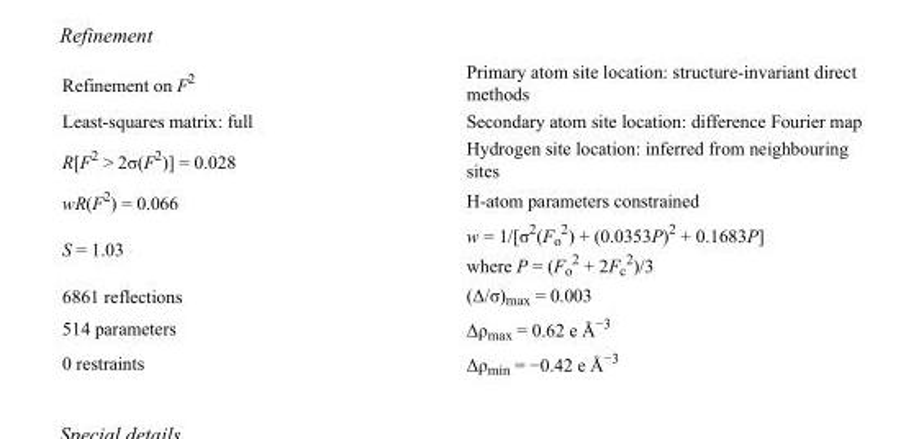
<table><tbody><tr><td>Refinement on F<sup>2</sup></td><td>Primary atom site location: structure-invariant direct methods</td></tr><tr><td>Least-squares matrix: full</td><td>Secondary atom site location: difference Fourier map</td></tr><tr><td>R[F<sup>2</sup> &gt; 2σ(F<sup>2</sup>)] = 0.028</td><td>Hydrogen site location: inferred from neighbouring sites</td></tr><tr><td>wR(F<sup>2</sup>) = 0.066</td><td>H-atom parameters constrained</td></tr><tr><td>S = 1.03</td><td>w = 1/[σ<sup>2</sup>(F<sub>o</sub> <sup>2</sup>) + (0.0353P)<sup>2</sup> + 0.1683P] where P = (F<sub>o</sub> <sup>2</sup> + 2F<sub>c</sub> <sup>2</sup>)/3</td></tr><tr><td>6861 reflections</td><td>(Δ/σ)<sub>max</sub> = 0.003</td></tr><tr><td>514 parameters</td><td>Δρ<sub>max</sub> = 0.62 e Å<sup>−3</sup></td></tr><tr><td>0 restraints</td><td>Δρmin = −0.42 e Å−3</td></tr></tbody></table>